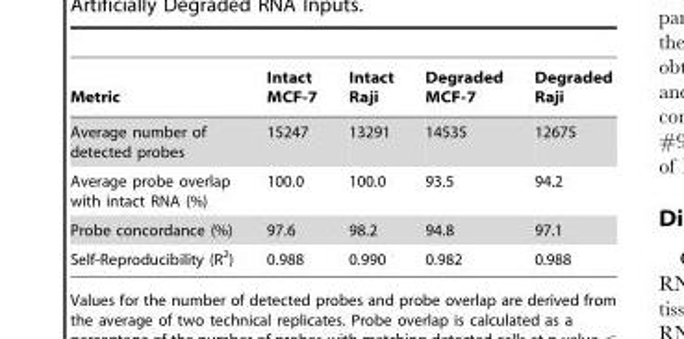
<table><thead><tr><td>Metric</td><td>Intact MCF-7</td><td>Intact Raji</td><td>Degraded MCF-7</td><td>Degraded Raji</td></tr></thead><tbody><tr><td>Average number of detected probes</td><td>15247</td><td>13291</td><td>14535</td><td>12675</td></tr><tr><td>Average probe overlap with intact RNA (%)</td><td>100.0</td><td>100.0</td><td>93.5</td><td>94.2</td></tr><tr><td>Probe concordance (%)</td><td>97.6</td><td>98.2</td><td>94.8</td><td>97.1</td></tr><tr><td>Self-Reproducibility (R<sup>2</sup>)</td><td>0.988</td><td>0.990</td><td>0.982</td><td>0.988</td></tr></tbody></table>